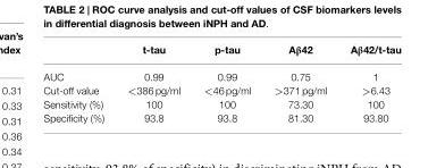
<table><thead><tr><td></td><td>t-tau</td><td>p-tau</td><td>Aβ42</td><td>Aβ42/t-tau</td></tr></thead><tbody><tr><td>AUC</td><td>0.99</td><td>0.99</td><td>0.75</td><td>1</td></tr><tr><td>Cut-off value</td><td>&lt;386 pg/ml</td><td>&lt;46 pg/ml</td><td>&gt;371 pg/ml</td><td>&gt;6.43</td></tr><tr><td>Sensitivity (%)</td><td>100</td><td>100</td><td>73.30</td><td>100</td></tr><tr><td>Specificity (%)</td><td>93.8</td><td>93.8</td><td>81.30</td><td>93.80</td></tr></tbody></table>